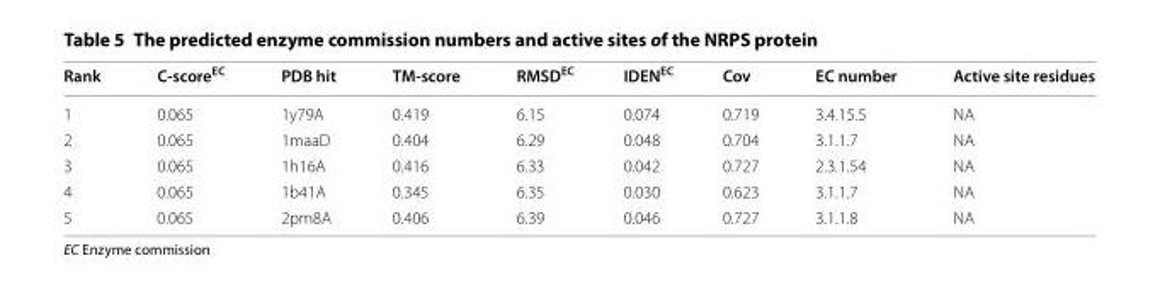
<table><thead><tr><td>Rank</td><td>C-score<sup>EC</sup></td><td>PDB hit</td><td>TM-score</td><td>RMSD<sup>EC</sup></td><td>IDEN<sup>EC</sup></td><td>Cov</td><td>EC number</td><td>Active site residues</td></tr></thead><tbody><tr><td>1</td><td>0.065</td><td>1y79A</td><td>0.419</td><td>6.15</td><td>0.074</td><td>0.719</td><td>3.4.15.5</td><td>NA</td></tr><tr><td>2</td><td>0.065</td><td>1maaD</td><td>0.404</td><td>6.29</td><td>0.048</td><td>0.704</td><td>3.1.1.7</td><td>NA</td></tr><tr><td>3</td><td>0.065</td><td>1h16A</td><td>0.416</td><td>6.33</td><td>0.042</td><td>0.727</td><td>2.3.1.54</td><td>NA</td></tr><tr><td>4</td><td>0.065</td><td>1b41A</td><td>0.345</td><td>6.35</td><td>0.030</td><td>0.623</td><td>3.1.1.7</td><td>NA</td></tr><tr><td>5</td><td>0.065</td><td>2pm8A</td><td>0.406</td><td>6.39</td><td>0.046</td><td>0.727</td><td>3.1.1.8</td><td>NA</td></tr></tbody></table>